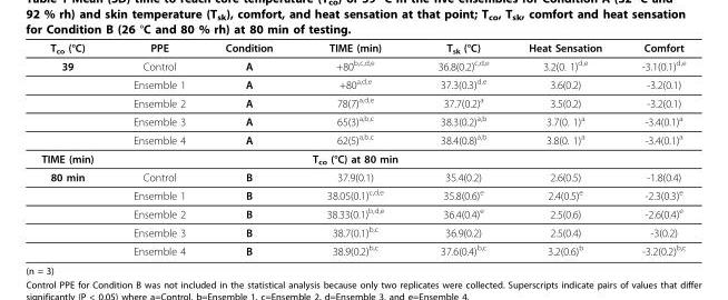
<table><thead><tr><td>T<sub>co</sub> (°C)</td><td>PPE</td><td>Condition</td><td>TIME (min)</td><td>T<sub>sk</sub> (°C)</td><td>Heat Sensation</td><td>Comfort</td></tr></thead><tbody><tr><td rowspan="5">39</td><td>Control</td><td>A</td><td>+80<sup>b,c,d,e</sup></td><td>36.8(0.2)<sup>c,d,e</sup></td><td>3.2(0. 1)<sup>d,e</sup></td><td>-3.1(0.1)<sup>d,e</sup></td></tr><tr><td>Ensemble 1</td><td>A</td><td>+80<sup>a,d,e</sup></td><td>37.3(0.3)<sup>d,e</sup></td><td>3.6(0.2)</td><td>-3.2(0.1)</td></tr><tr><td>Ensemble 2</td><td>A</td><td>78(7)<sup>a,d,e</sup></td><td>37.7(0.2)<sup>a</sup></td><td>3.5(0.2)</td><td>-3.2(0.1)</td></tr><tr><td>Ensemble 3</td><td>A</td><td>65(3)<sup>a,b,c</sup></td><td>38.3(0.2)<sup>a,b</sup></td><td>3.7(0. 1)<sup>a</sup></td><td>-3.4(0.1)<sup>a</sup></td></tr><tr><td>Ensemble 4</td><td>A</td><td>62(5)<sup>a,b,c</sup></td><td>38.4(0.8)<sup>a,b</sup></td><td>3.8(0. 1)<sup>a</sup></td><td>-3.4(0.1)<sup>a</sup></td></tr><tr><td>TIME (min)</td><td></td><td></td><td>T<sub>co</sub> (°C) at 80 min</td><td></td><td></td><td></td></tr><tr><td rowspan="5">80 min</td><td>Control</td><td>B</td><td>37.9(0.1)</td><td>35.4(0.2)</td><td>2.6(0.5)</td><td>-1.8(0.4)</td></tr><tr><td>Ensemble 1</td><td>B</td><td>38.05(0.1)<sup>c,d,e</sup></td><td>35.8(0.6)<sup>e</sup></td><td>2.4(0.5)<sup>e</sup></td><td>-2.3(0.3)<sup>e</sup></td></tr><tr><td>Ensemble 2</td><td>B</td><td>38.33(0.1)<sup>b,d,e</sup></td><td>36.4(0.4)<sup>e</sup></td><td>2.5(0.6)</td><td>-2.6(0.4)<sup>e</sup></td></tr><tr><td>Ensemble 3</td><td>B</td><td>38.7(0.1)<sup>b,c</sup></td><td>36.9(0.2)</td><td>2.5(0.4)</td><td>-3(0.2)</td></tr><tr><td>Ensemble 4</td><td>B</td><td>38.9(0.2)<sup>b,c</sup></td><td>37.6(0.4)<sup>b,c</sup></td><td>3.2(0.6)<sup>b</sup></td><td>-3.2(0.2)<sup>b,c</sup></td></tr></tbody></table>